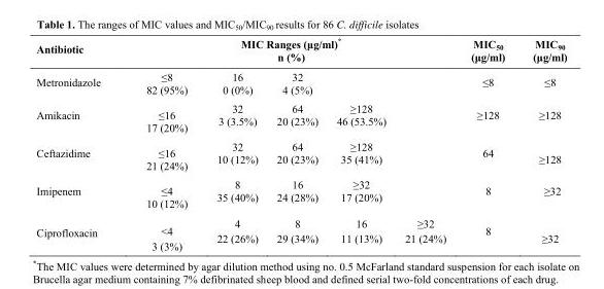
<table><thead><tr><td rowspan="2">Antibiotic Metronidazole</td><td colspan="5">MIC Ranges (μg/ml)* n (%)</td><td rowspan="2">MIC<sub>50</sub> (μg/ml) ≤8</td><td rowspan="2">MIC<sub>90</sub> (μg/ml) ≤8</td></tr><tr><td>≤8 82 (95%)</td><td>16 0 (0%)</td><td>32 4 (5%)</td><td></td><td></td></tr></thead><tbody><tr><td>Amikacin</td><td>≤16 17 (20%)</td><td>32 3 (3.5%)</td><td>64 20 (23%)</td><td>≥128 46 (53.5%)</td><td></td><td>≥128</td><td>≥128</td></tr><tr><td>Ceftazidime</td><td>≤16 21 (24%)</td><td>32 10 (12%)</td><td>64 20 (23%)</td><td>≥128 35 (41%)</td><td></td><td>64</td><td>≥128</td></tr><tr><td>Imipenem</td><td>≤4 10 (12%)</td><td>8 35 (40%)</td><td>16 24 (28%)</td><td>≥32 17 (20%)</td><td></td><td>8</td><td>≥32</td></tr><tr><td>Ciprofloxacin</td><td>&lt;4 3 (3%)</td><td>4 22 (26%)</td><td>8 29 (34%)</td><td>16 11 (13%)</td><td>≥32 21 (24%)</td><td>8</td><td>≥32</td></tr></tbody></table>